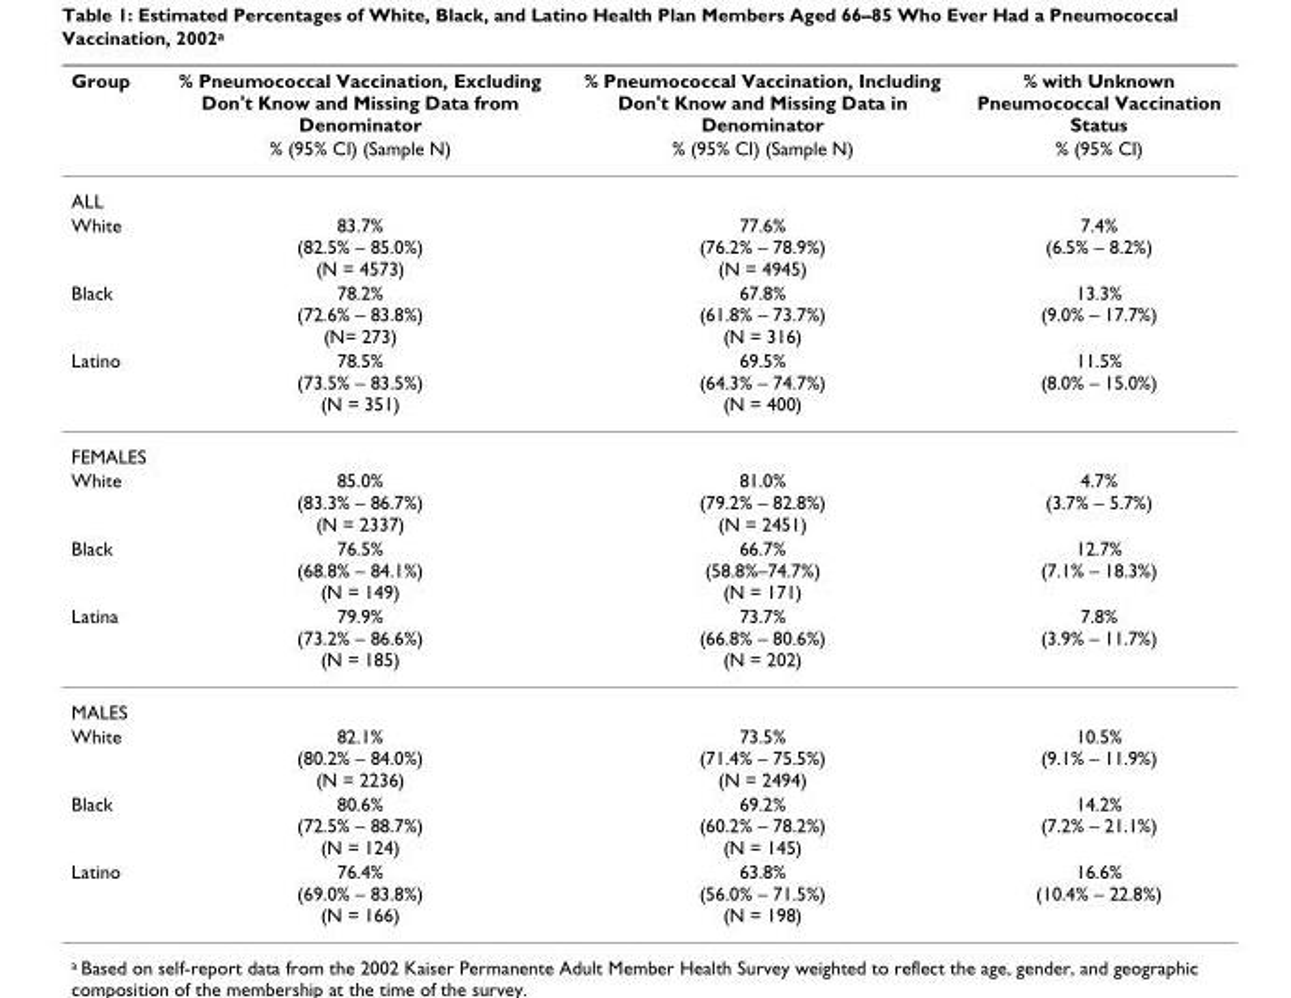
<table><thead><tr><td rowspan="2">Group</td><td rowspan="2">% Pneumococcal Vaccination, Excluding Don&#x27;t Know and Missing Data from Denominator % (95% CI) (Sample N)</td><td rowspan="2">% Pneumococcal Vaccination, Including Don&#x27;t Know and Missing Data in Denominator % (95% CI) (Sample N)</td><td rowspan="2">% with Unknown Pneumococcal Vaccination Status % (95% CI)</td></tr><tr></tr></thead><tbody><tr><td colspan="4">ALL</td></tr><tr><td>White</td><td>83.7% (82.5% – 85.0%) (N = 4573)</td><td>77.6% (76.2% – 78.9%) (N = 4945)</td><td>7.4% (6.5% – 8.2%)</td></tr><tr><td>Black</td><td>78.2% (72.6% – 83.8%) (N= 273)</td><td>67.8% (61.8% – 73.7%) (N = 316)</td><td>13.3% (9.0% – 17.7%)</td></tr><tr><td>Latino</td><td>78.5% (73.5% – 83.5%) (N = 351)</td><td>69.5% (64.3% – 74.7%) (N = 400)</td><td>11.5% (8.0% – 15.0%)</td></tr><tr><td colspan="4">FEMALES</td></tr><tr><td>White</td><td>85.0% (83.3% – 86.7%) (N = 2337)</td><td>81.0% (79.2% – 82.8%) (N = 2451)</td><td>4.7% (3.7% – 5.7%)</td></tr><tr><td>Black</td><td>76.5% (68.8% – 84.1%) (N = 149)</td><td>66.7% (58.8%–74.7%) (N = 171)</td><td>12.7% (7.1% – 18.3%)</td></tr><tr><td>Latina</td><td>79.9% (73.2% – 86.6%) (N = 185)</td><td>73.7% (66.8% – 80.6%) (N = 202)</td><td>7.8% (3.9% – 11.7%)</td></tr><tr><td colspan="4">MALES</td></tr><tr><td>White</td><td>82.1% (80.2% – 84.0%) (N = 2236)</td><td>73.5% (71.4% – 75.5%) (N = 2494)</td><td>10.5% (9.1% – 11.9%)</td></tr><tr><td>Black</td><td>80.6% (72.5% – 88.7%) (N = 124)</td><td>69.2% (60.2% – 78.2%) (N = 145)</td><td>14.2% (7.2% – 21.1%)</td></tr><tr><td>Latino</td><td>76.4% (69.0% – 83.8%) (N = 166)</td><td>63.8% (56.0% – 71.5%) (N = 198)</td><td>16.6% (10.4% – 22.8%)</td></tr></tbody></table>